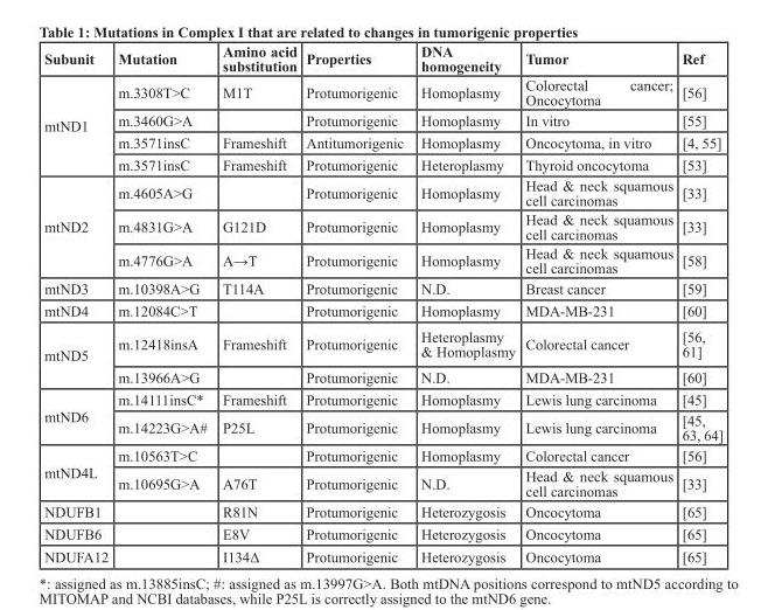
<table><thead><tr><td>Subunit</td><td>Mutation</td><td>Amino acid substitution</td><td>Properties</td><td>DNA homogeneity</td><td>Tumor</td><td>Ref</td></tr></thead><tbody><tr><td rowspan="4">mtND1</td><td>m.3308T&gt;C</td><td>M1T</td><td>Protumorigenic</td><td>Homoplasmy</td><td>Colorectal cancer; Oncocytoma</td><td>[56]</td></tr><tr><td>m.3460G&gt;A</td><td></td><td>Protumorigenic</td><td>Homoplasmy</td><td>In vitro</td><td>[55]</td></tr><tr><td>m.3571insC</td><td>Frameshift</td><td>Antitumorigenic</td><td>Homoplasmy</td><td>Oncocytoma, in vitro</td><td>[4, 55]</td></tr><tr><td>m.3571insC</td><td>Frameshift</td><td>Protumorigenic</td><td>Heteroplasmy</td><td>Thyroid oncocytoma</td><td>[53]</td></tr><tr><td rowspan="3">mtND2</td><td>m.4605A&gt;G</td><td></td><td>Protumorigenic</td><td>Homoplasmy</td><td>Head &amp; neck squamous cell carcinomas</td><td>[33]</td></tr><tr><td>m.4831G&gt;A</td><td>G121D</td><td>Protumorigenic</td><td>Homoplasmy</td><td>Head &amp; neck squamous cell carcinomas</td><td>[33]</td></tr><tr><td>m.4776G&gt;A</td><td>A→T</td><td>Protumorigenic</td><td>Homoplasmy</td><td>Head &amp; neck squamous cell carcinomas</td><td>[58]</td></tr><tr><td>mtND3</td><td>m.10398A&gt;G</td><td>T114A</td><td>Protumorigenic</td><td>N.D.</td><td>Breast cancer</td><td>[59]</td></tr><tr><td>mtND4</td><td>m.12084C&gt;T</td><td></td><td>Protumorigenic</td><td>Homoplasmy</td><td>MDA-MB-231</td><td>[60]</td></tr><tr><td rowspan="2">mtND5</td><td>m.12418insA</td><td>Frameshift</td><td>Protumorigenic</td><td>Heteroplasmy &amp; Homoplasmy</td><td>Colorectal cancer</td><td>[56, 61]</td></tr><tr><td>m.13966A&gt;G</td><td></td><td>Protumorigenic</td><td>N.D.</td><td>MDA-MB-231</td><td>[60]</td></tr><tr><td rowspan="2">mtND6</td><td>m.14111insC*</td><td>Frameshift</td><td>Protumorigenic</td><td>Homoplasmy</td><td>Lewis lung carcinoma</td><td>[45]</td></tr><tr><td>m.14223G&gt;A#</td><td>P25L</td><td>Protumorigenic</td><td>Homoplasmy</td><td>Lewis lung carcinoma</td><td>[45, 63, 64]</td></tr><tr><td rowspan="2">mtND4L</td><td>m.10563T&gt;C</td><td></td><td>Protumorigenic</td><td>Homoplasmy</td><td>Colorectal cancer</td><td>[56]</td></tr><tr><td>m.10695G&gt;A</td><td>A76T</td><td>Protumorigenic</td><td>N.D.</td><td>Head &amp; neck squamous cell carcinomas</td><td>[33]</td></tr><tr><td>NDUFB1</td><td></td><td>R81N</td><td>Protumorigenic</td><td>Heterozygosis</td><td>Oncocytoma</td><td>[65]</td></tr><tr><td>NDUFB6</td><td></td><td>E8V</td><td>Protumorigenic</td><td>Heterozygosis</td><td>Oncocytoma</td><td>[65]</td></tr><tr><td>NDUFA12</td><td></td><td>I134Δ</td><td>Protumorigenic</td><td>Heterozygosis</td><td>Oncocytoma</td><td>[65]</td></tr></tbody></table>